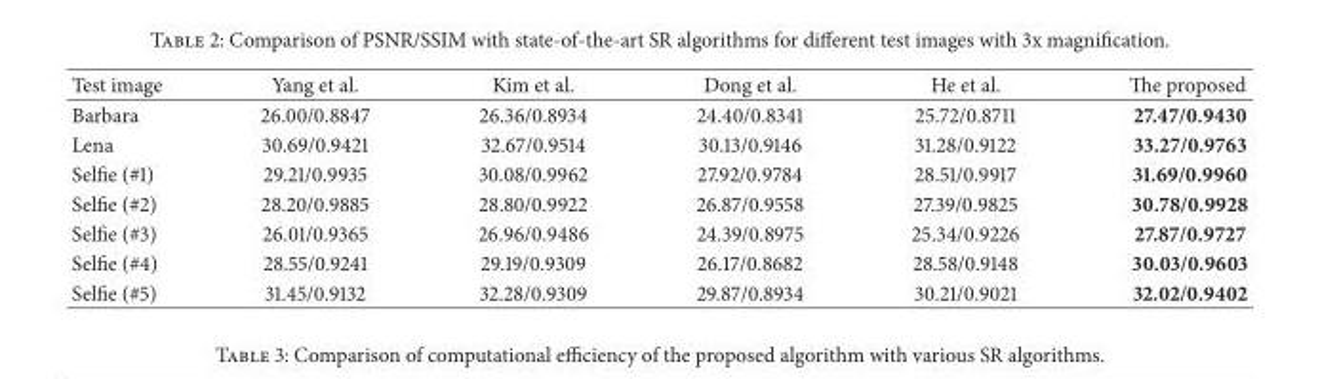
<table><thead><tr><td>Test image</td><td>Yang et al.</td><td>Kim et al.</td><td>Dong et al.</td><td>He et al.</td><td>The proposed</td></tr></thead><tbody><tr><td>Barbara</td><td>26.00/0.8847</td><td>26.36/0.8934</td><td>24.40/0.8341</td><td>25.72/0.8711</td><td>27.47/0.9430</td></tr><tr><td>Lena</td><td>30.69/0.9421</td><td>32.67/0.9514</td><td>30.13/0.9146</td><td>31.28/0.9122</td><td>33.27/0.9763</td></tr><tr><td>Selfie (#1)</td><td>29.21/0.9935</td><td>30.08/0.9962</td><td>27.92/0.9784</td><td>28.51/0.9917</td><td>31.69/0.9960</td></tr><tr><td>Selfie (#2)</td><td>28.20/0.9885</td><td>28.80/0.9922</td><td>26.87/0.9558</td><td>27.39/0.9825</td><td>30.78/0.9928</td></tr><tr><td>Selfie (#3)</td><td>26.01/0.9365</td><td>26.96/0.9486</td><td>24.39/0.8975</td><td>25.34/0.9226</td><td>27.87/0.9727</td></tr><tr><td>Selfie (#4)</td><td>28.55/0.9241</td><td>29.19/0.9309</td><td>26.17/0.8682</td><td>28.58/0.9148</td><td>30.03/0.9603</td></tr><tr><td>Selfie (#5)</td><td>31.45/0.9132</td><td>32.28/0.9309</td><td>29.87/0.8934</td><td>30.21/0.9021</td><td>32.02/0.9402</td></tr></tbody></table>